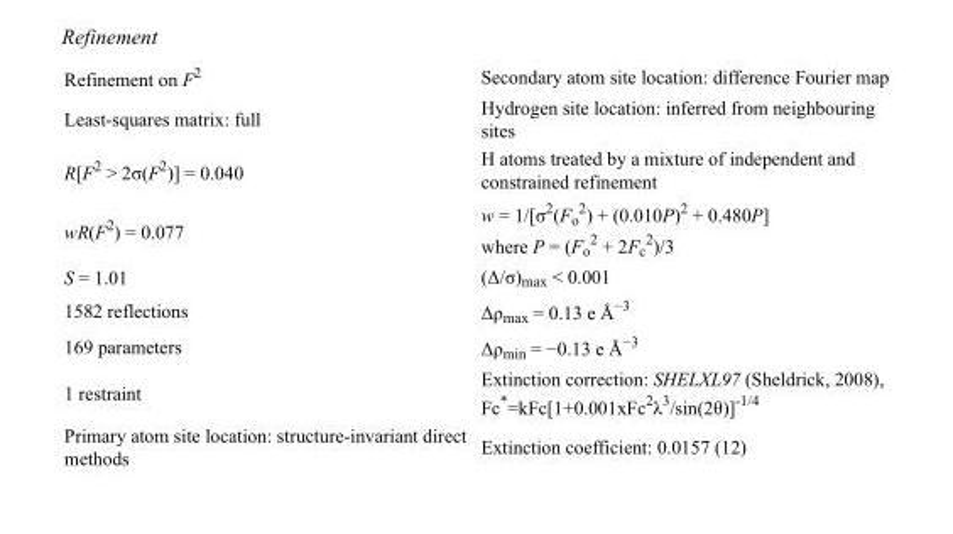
<table><tbody><tr><td>Refinement on F<sup>2</sup></td><td>Secondary atom site location: difference Fourier map</td></tr><tr><td>Least-squares matrix: full</td><td>Hydrogen site location: inferred from neighbouring sites</td></tr><tr><td>R[F<sup>2</sup> &gt; 2σ(F<sup>2</sup>)] = 0.040</td><td>H atoms treated by a mixture of independent and constrained refinement</td></tr><tr><td>wR(F<sup>2</sup>) = 0.077</td><td>w = 1/[σ<sup>2</sup>(F<sub>o</sub> <sup>2</sup>) + (0.010P)<sup>2</sup> + 0.480P] where P = (F<sub>o</sub> <sup>2</sup> + 2F<sub>c</sub> <sup>2</sup>)/3</td></tr><tr><td>S = 1.01</td><td>(Δ/σ)<sub>max</sub> &lt; 0.001</td></tr><tr><td>1582 reflections</td><td>Δρ<sub>max</sub> = 0.13 e Å<sup>−3</sup></td></tr><tr><td>169 parameters</td><td>Δρ<sub>min</sub> = −0.13 e Å<sup>−3</sup></td></tr><tr><td>1 restraint</td><td>Extinction correction: SHELXL97 (Sheldrick, 2008), Fc*=kFc[1+0.001xFc<sup>2</sup>λ<sup>3</sup>/sin(2θ)]<sup>-1/4</sup></td></tr><tr><td>Primary atom site location: structure-invariant direct methods</td><td>Extinction coefficient: 0.0157 (12)</td></tr></tbody></table>